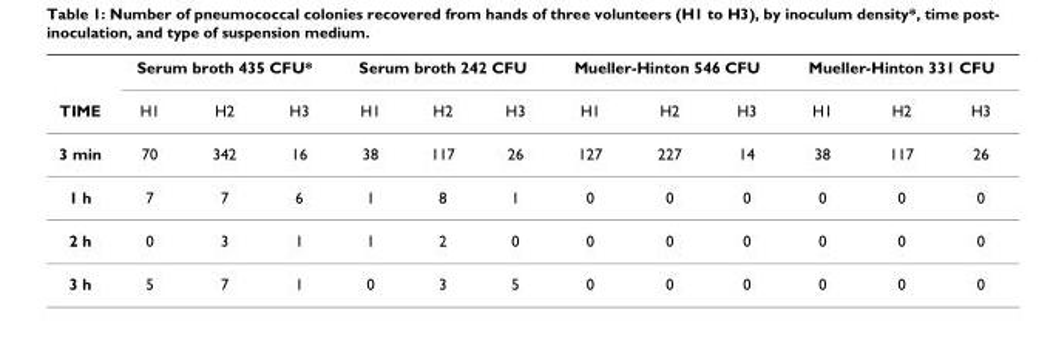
<table><thead><tr><td rowspan="2">TIME</td><td colspan="3">Serum broth 435 CFU*</td><td colspan="3">Serum broth 242 CFU</td><td colspan="3">Mueller-Hinton 546 CFU</td><td colspan="3">Mueller-Hinton 331 CFU</td></tr><tr><td>H1</td><td>H2</td><td>H3</td><td>H1</td><td>H2</td><td>H3</td><td>H1</td><td>H2</td><td>H3</td><td>H1</td><td>H2</td><td>H3</td></tr></thead><tbody><tr><td>3 min</td><td>70</td><td>342</td><td>16</td><td>38</td><td>117</td><td>26</td><td>127</td><td>227</td><td>14</td><td>38</td><td>117</td><td>26</td></tr><tr><td>1 h</td><td>7</td><td>7</td><td>6</td><td>1</td><td>8</td><td>1</td><td>0</td><td>0</td><td>0</td><td>0</td><td>0</td><td>0</td></tr><tr><td>2 h</td><td>0</td><td>3</td><td>1</td><td>1</td><td>2</td><td>0</td><td>0</td><td>0</td><td>0</td><td>0</td><td>0</td><td>0</td></tr><tr><td>3 h</td><td>5</td><td>7</td><td>1</td><td>0</td><td>3</td><td>5</td><td>0</td><td>0</td><td>0</td><td>0</td><td>0</td><td>0</td></tr></tbody></table>